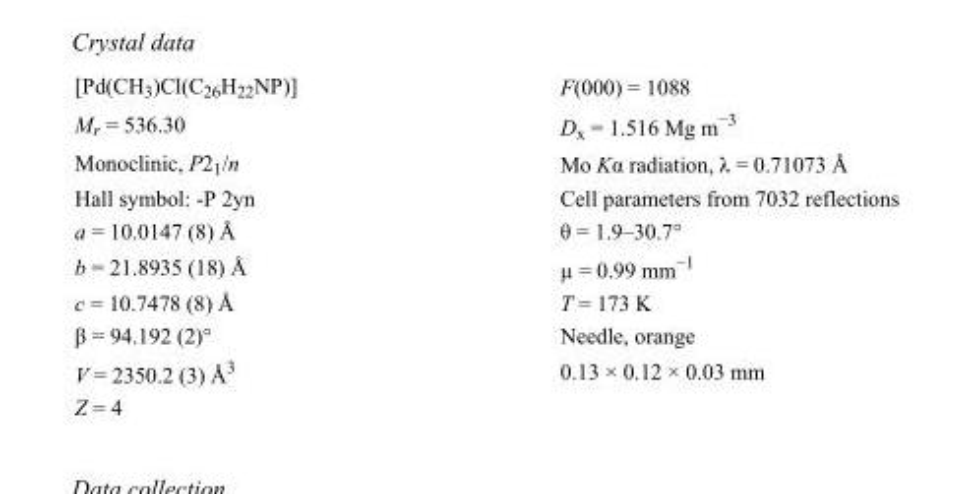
<table><tbody><tr><td>[Pd(CH<sub>3</sub>)Cl(C<sub>26</sub>H<sub>22</sub>NP)]</td><td>F(000) = 1088</td></tr><tr><td>M<sub>r</sub> = 536.30</td><td>D<sub>x</sub> = 1.516 Mg m<sup>−3</sup></td></tr><tr><td>Monoclinic, P2<sub>1</sub>/n</td><td>Mo Kα radiation, λ = 0.71073 Å</td></tr><tr><td>Hall symbol: -P 2yn</td><td>Cell parameters from 7032 reflections</td></tr><tr><td>a = 10.0147 (8) Å</td><td>θ = 1.9–30.7°</td></tr><tr><td>b = 21.8935 (18) Å</td><td>µ = 0.99 mm<sup>−1</sup></td></tr><tr><td>c = 10.7478 (8) Å</td><td>T = 173 K</td></tr><tr><td>β = 94.192 (2)°</td><td>Needle, orange</td></tr><tr><td>V = 2350.2 (3) Å<sup>3</sup></td><td>0.13 × 0.12 × 0.03 mm</td></tr><tr><td>Z = 4</td><td></td></tr></tbody></table>